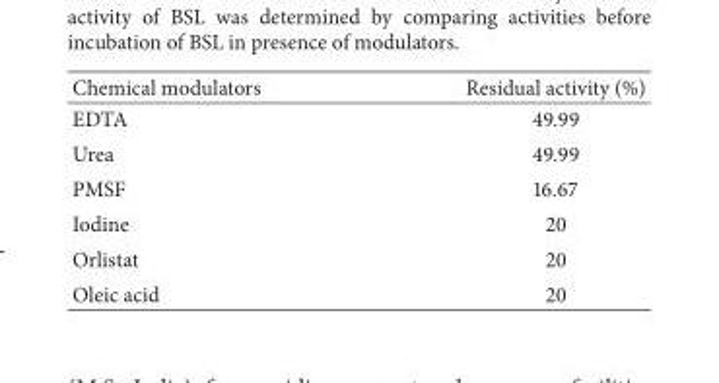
<table><thead><tr><td>Chemical modulators</td><td>Residual activity (%)</td></tr></thead><tbody><tr><td>EDTA</td><td>49.99</td></tr><tr><td>Urea</td><td>49.99</td></tr><tr><td>PMSF</td><td>16.67</td></tr><tr><td>Iodine</td><td>20</td></tr><tr><td>Orlistat</td><td>20</td></tr><tr><td>Oleic acid</td><td>20</td></tr></tbody></table>